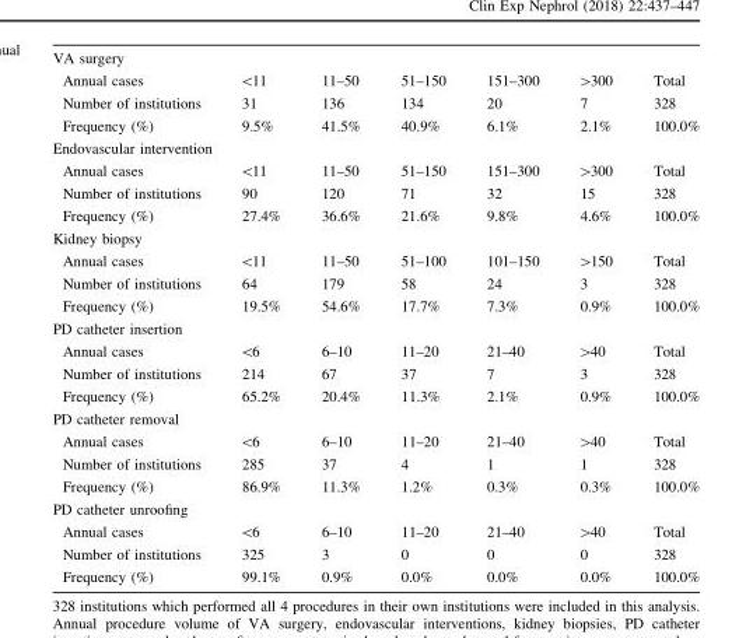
<table><tbody><tr><td colspan="7">VA surgery</td></tr><tr><td>Annual cases</td><td>&lt;11</td><td>11–50</td><td>51–150</td><td>151–300</td><td>&gt;300</td><td>Total</td></tr><tr><td>Number of institutions</td><td>31</td><td>136</td><td>134</td><td>20</td><td>7</td><td>328</td></tr><tr><td>Frequency (%)</td><td>9.5%</td><td>41.5%</td><td>40.9%</td><td>6.1%</td><td>2.1%</td><td>100.0%</td></tr><tr><td colspan="7">Endovascular intervention</td></tr><tr><td>Annual cases</td><td>&lt;11</td><td>11–50</td><td>51–150</td><td>151–300</td><td>&gt;300</td><td>Total</td></tr><tr><td>Number of institutions</td><td>90</td><td>120</td><td>71</td><td>32</td><td>15</td><td>328</td></tr><tr><td>Frequency (%)</td><td>27.4%</td><td>36.6%</td><td>21.6%</td><td>9.8%</td><td>4.6%</td><td>100.0%</td></tr><tr><td colspan="7">Kidney biopsy</td></tr><tr><td>Annual cases</td><td>&lt;11</td><td>11–50</td><td>51–100</td><td>101–150</td><td>&gt;150</td><td>Total</td></tr><tr><td>Number of institutions</td><td>64</td><td>179</td><td>58</td><td>24</td><td>3</td><td>328</td></tr><tr><td>Frequency (%)</td><td>19.5%</td><td>54.6%</td><td>17.7%</td><td>7.3%</td><td>0.9%</td><td>100.0%</td></tr><tr><td colspan="7">PD catheter insertion</td></tr><tr><td>Annual cases</td><td>&lt;6</td><td>6–10</td><td>11–20</td><td>21–40</td><td>&gt;40</td><td>Total</td></tr><tr><td>Number of institutions</td><td>214</td><td>67</td><td>37</td><td>7</td><td>3</td><td>328</td></tr><tr><td>Frequency (%)</td><td>65.2%</td><td>20.4%</td><td>11.3%</td><td>2.1%</td><td>0.9%</td><td>100.0%</td></tr><tr><td colspan="7">PD catheter removal</td></tr><tr><td>Annual cases</td><td>&lt;6</td><td>6–10</td><td>11–20</td><td>21–40</td><td>&gt;40</td><td>Total</td></tr><tr><td>Number of institutions</td><td>285</td><td>37</td><td>4</td><td>1</td><td>1</td><td>328</td></tr><tr><td>Frequency (%)</td><td>86.9%</td><td>11.3%</td><td>1.2%</td><td>0.3%</td><td>0.3%</td><td>100.0%</td></tr><tr><td colspan="7">PD catheter unroofing</td></tr><tr><td>Annual cases</td><td>&lt;6</td><td>6–10</td><td>11–20</td><td>21–40</td><td>&gt;40</td><td>Total</td></tr><tr><td>Number of institutions</td><td>325</td><td>3</td><td>0</td><td>0</td><td>0</td><td>328</td></tr><tr><td>Frequency (%)</td><td>99.1%</td><td>0.9%</td><td>0.0%</td><td>0.0%</td><td>0.0%</td><td>100.0%</td></tr></tbody></table>